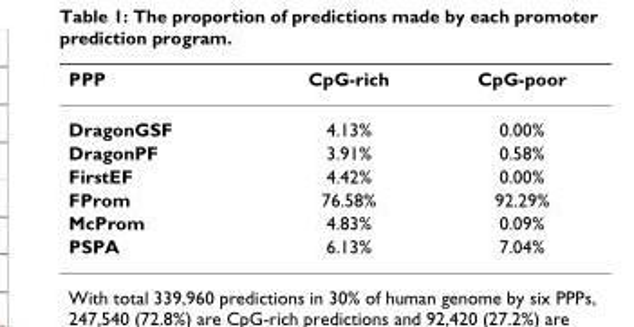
<table><thead><tr><td>PPP</td><td>CpG-rich</td><td>CpG-poor</td></tr></thead><tbody><tr><td>DragonGSF</td><td>4.13%</td><td>0.00%</td></tr><tr><td>DragonPF</td><td>3.91%</td><td>0.58%</td></tr><tr><td>FirstEF</td><td>4.42%</td><td>0.00%</td></tr><tr><td>FProm</td><td>76.58%</td><td>92.29%</td></tr><tr><td>McProm</td><td>4.83%</td><td>0.09%</td></tr><tr><td>PSPA</td><td>6.13%</td><td>7.04%</td></tr></tbody></table>